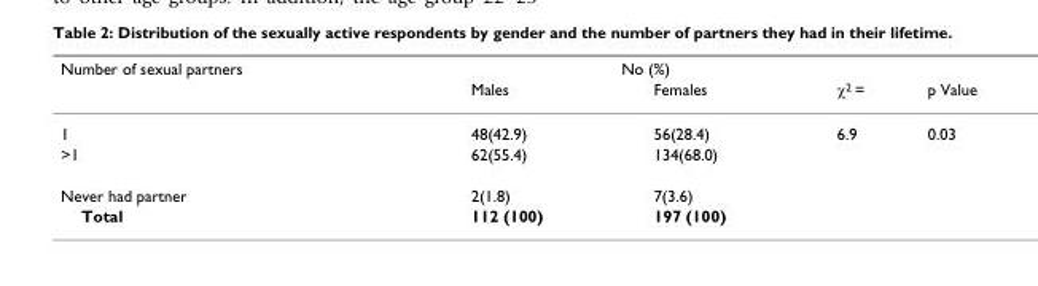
<table><thead><tr><td rowspan="2">Number of sexual partners</td><td colspan="2">No (%)</td><td rowspan="2">χ<sup>2</sup> =</td><td rowspan="2">p Value</td></tr><tr><td>Males</td><td>Females</td></tr></thead><tbody><tr><td>1</td><td>48(42.9)</td><td>56(28.4)</td><td>6.9</td><td>0.03</td></tr><tr><td>&gt;1</td><td>62(55.4)</td><td>134(68.0)</td><td></td><td></td></tr><tr><td>Never had partner</td><td>2(1.8)</td><td>7(3.6)</td><td></td><td></td></tr><tr><td>Total</td><td>112 (100)</td><td>197 (100)</td><td></td><td></td></tr></tbody></table>